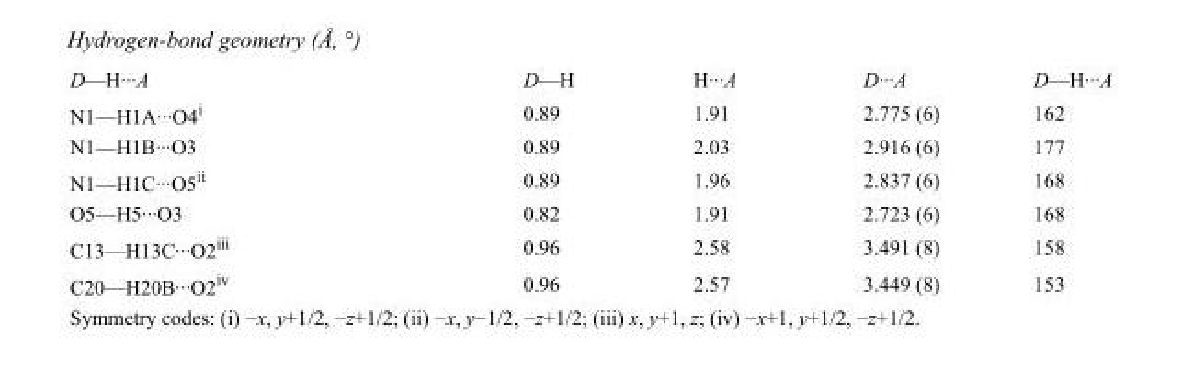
<table><tbody><tr><td>D—H···A</td><td>D—H</td><td>H···A</td><td>D···A</td><td>D—H···A</td></tr><tr><td>N1—H1A···O4<sup>i</sup></td><td>0.89</td><td>1.91</td><td>2.775 (6)</td><td>162</td></tr><tr><td>N1—H1B···O3</td><td>0.89</td><td>2.03</td><td>2.916 (6)</td><td>177</td></tr><tr><td>N1—H1C···O5<sup>ii</sup></td><td>0.89</td><td>1.96</td><td>2.837 (6)</td><td>168</td></tr><tr><td>O5—H5···O3</td><td>0.82</td><td>1.91</td><td>2.723 (6)</td><td>168</td></tr><tr><td>C13—H13C···O2<sup>iii</sup></td><td>0.96</td><td>2.58</td><td>3.491 (8)</td><td>158</td></tr><tr><td>C20—H20B···O2<sup>iv</sup></td><td>0.96</td><td>2.57</td><td>3.449 (8)</td><td>153</td></tr></tbody></table>